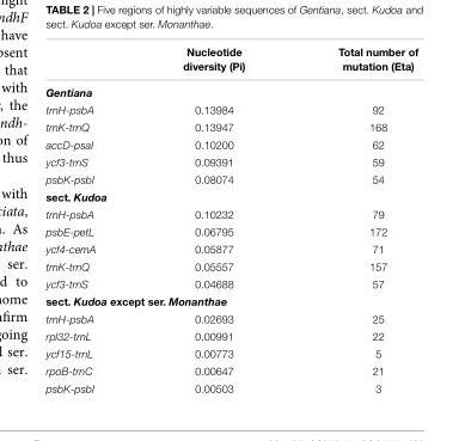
<table><thead><tr><td></td><td>Nucleotide diversity (Pi)</td><td>Total number of mutation (Eta)</td></tr></thead><tbody><tr><td colspan="3">Gentiana</td></tr><tr><td>trnH-psbA</td><td>0.13984</td><td>92</td></tr><tr><td>trnK-trnQ</td><td>0.13947</td><td>168</td></tr><tr><td>accD-psaI</td><td>0.10200</td><td>62</td></tr><tr><td>ycf3-trnS</td><td>0.09391</td><td>59</td></tr><tr><td>psbK-psbI</td><td>0.08074</td><td>54</td></tr><tr><td colspan="3">sect. Kudoa</td></tr><tr><td>trnH-psbA</td><td>0.10232</td><td>79</td></tr><tr><td>psbE-petL</td><td>0.06795</td><td>172</td></tr><tr><td>ycf4-cemA</td><td>0.05877</td><td>71</td></tr><tr><td>trnK-trnQ</td><td>0.05557</td><td>157</td></tr><tr><td>ycf3-trnS</td><td>0.04688</td><td>57</td></tr><tr><td colspan="3">sect. Kudoa except ser. Monanthae</td></tr><tr><td>trnH-psbA</td><td>0.02693</td><td>25</td></tr><tr><td>rpl32-trnL</td><td>0.00991</td><td>22</td></tr><tr><td>ycf15-trnL</td><td>0.00773</td><td>5</td></tr><tr><td>rpoB-trnC</td><td>0.00647</td><td>21</td></tr><tr><td>psbK-psbI</td><td>0.00503</td><td>3</td></tr></tbody></table>